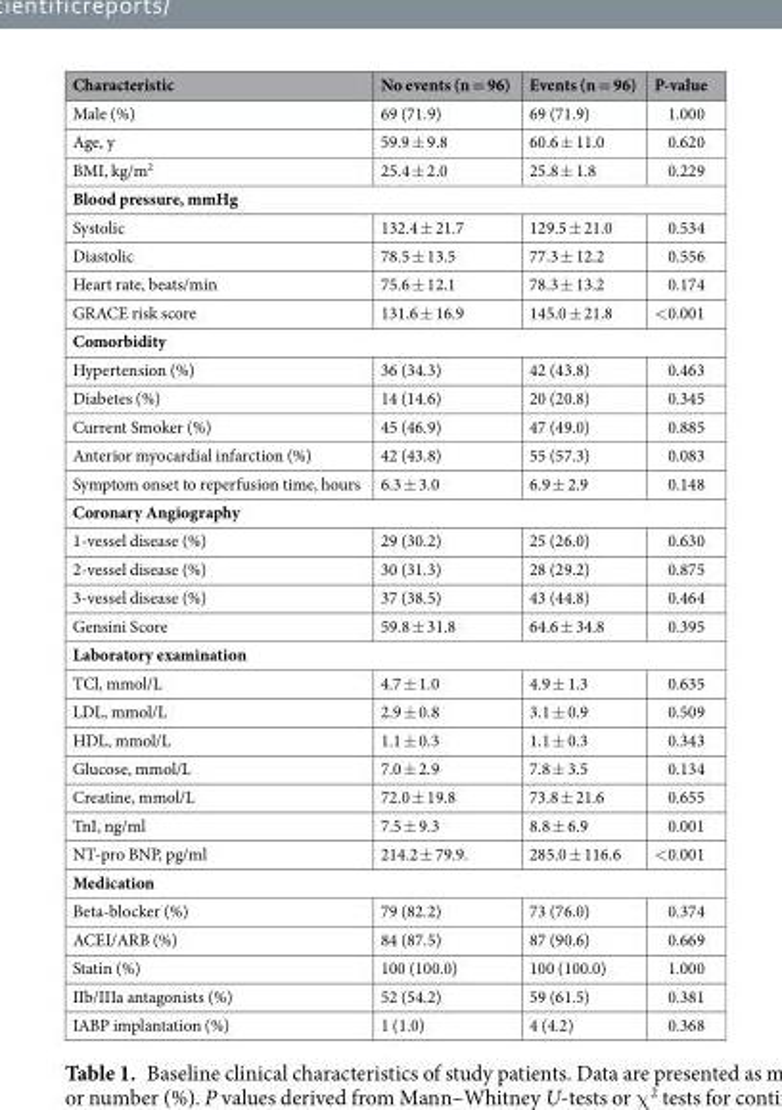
<table><thead><tr><td>Characteristic</td><td>No events (n = 96)</td><td>Events (n = 96)</td><td>P-value</td></tr></thead><tbody><tr><td>Male (%)</td><td>69 (71.9)</td><td>69 (71.9)</td><td>1.000</td></tr><tr><td>Age, y</td><td>59.9 ± 9.8</td><td>60.6 ± 11.0</td><td>0.620</td></tr><tr><td>BMI, kg/m<sup>2</sup></td><td>25.4 ± 2.0</td><td>25.8 ± 1.8</td><td>0.229</td></tr><tr><td colspan="4">Blood pressure, mmHg</td></tr><tr><td>Systolic</td><td>132.4 ± 21.7</td><td>129.5 ± 21.0</td><td>0.534</td></tr><tr><td>Diastolic</td><td>78.5 ± 13.5</td><td>77.3 ± 12.2</td><td>0.556</td></tr><tr><td>Heart rate, beats/min</td><td>75.6 ± 12.1</td><td>78.3 ± 13.2</td><td>0.174</td></tr><tr><td>GRACE risk score</td><td>131.6 ± 16.9</td><td>145.0 ± 21.8</td><td>&lt;0.001</td></tr><tr><td colspan="4">Comorbidity</td></tr><tr><td>Hypertension (%)</td><td>36 (34.3)</td><td>42 (43.8)</td><td>0.463</td></tr><tr><td>Diabetes (%)</td><td>14 (14.6)</td><td>20 (20.8)</td><td>0.345</td></tr><tr><td>Current Smoker (%)</td><td>45 (46.9)</td><td>47 (49.0)</td><td>0.885</td></tr><tr><td>Anterior myocardial infarction (%)</td><td>42 (43.8)</td><td>55 (57.3)</td><td>0.083</td></tr><tr><td>Symptom onset to reperfusion time, hours</td><td>6.3 ± 3.0</td><td>6.9 ± 2.9</td><td>0.148</td></tr><tr><td colspan="4">Coronary Angiography</td></tr><tr><td>1-vessel disease (%)</td><td>29 (30.2)</td><td>25 (26.0)</td><td>0.630</td></tr><tr><td>2-vessel disease (%)</td><td>30 (31.3)</td><td>28 (29.2)</td><td>0.875</td></tr><tr><td>3-vessel disease (%)</td><td>37 (38.5)</td><td>43 (44.8)</td><td>0.464</td></tr><tr><td>Gensini Score</td><td>59.8 ± 31.8</td><td>64.6 ± 34.8</td><td>0.395</td></tr><tr><td colspan="4">Laboratory examination</td></tr><tr><td>TCl, mmol/L</td><td>4.7 ± 1.0</td><td>4.9 ± 1.3</td><td>0.635</td></tr><tr><td>LDL, mmol/L</td><td>2.9 ± 0.8</td><td>3.1 ± 0.9</td><td>0.509</td></tr><tr><td>HDL, mmol/L</td><td>1.1 ± 0.3</td><td>1.1 ± 0.3</td><td>0.343</td></tr><tr><td>Glucose, mmol/L</td><td>7.0 ± 2.9</td><td>7.8 ± 3.5</td><td>0.134</td></tr><tr><td>Creatine, mmol/L</td><td>72.0 ± 19.8</td><td>73.8 ± 21.6</td><td>0.655</td></tr><tr><td>TnI, ng/ml</td><td>7.5 ± 9.3</td><td>8.8 ± 6.9</td><td>0.001</td></tr><tr><td>NT-pro BNP, pg/ml</td><td>214.2 ± 79.9.</td><td>285.0 ± 116.6</td><td>&lt;0.001</td></tr><tr><td colspan="4">Medication</td></tr><tr><td>Beta-blocker (%)</td><td>79 (82.2)</td><td>73 (76.0)</td><td>0.374</td></tr><tr><td>ACEI/ARB (%)</td><td>84 (87.5)</td><td>87 (90.6)</td><td>0.669</td></tr><tr><td>Statin (%)</td><td>100 (100.0)</td><td>100 (100.0)</td><td>1.000</td></tr><tr><td>IIb/IIIa antagonists (%)</td><td>52 (54.2)</td><td>59 (61.5)</td><td>0.381</td></tr><tr><td>IABP implantation (%)</td><td>1 (1.0)</td><td>4 (4.2)</td><td>0.368</td></tr></tbody></table>